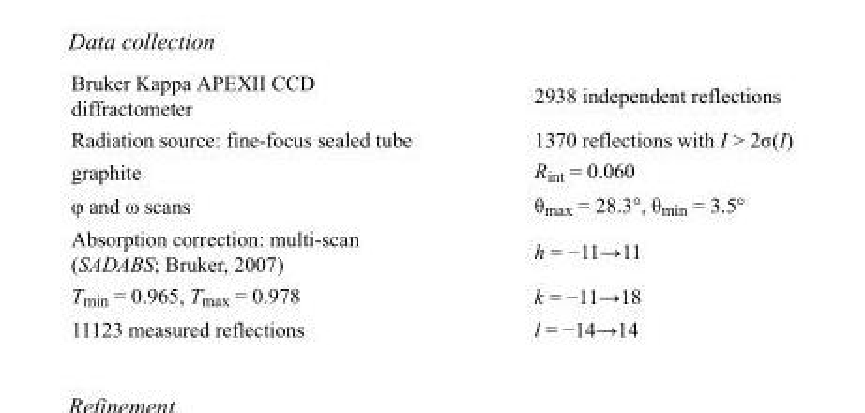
<table><tbody><tr><td>Bruker Kappa APEXII CCD diffractometer</td><td>2938 independent reflections</td></tr><tr><td>Radiation source: fine-focus sealed tube</td><td>1370 reflections with I &gt; 2σ(I)</td></tr><tr><td>graphite</td><td>R<sub>int</sub> = 0.060</td></tr><tr><td>φ and ω scans</td><td>θ<sub>max</sub> = 28.3°, θ<sub>min</sub> = 3.5°</td></tr><tr><td>Absorption correction: multi-scan (SADABS; Bruker, 2007)</td><td>h = −11→11</td></tr><tr><td>T<sub>min</sub> = 0.965, T<sub>max</sub> = 0.978</td><td>k = −11→18</td></tr><tr><td>11123 measured reflections</td><td>l = −14→14</td></tr></tbody></table>